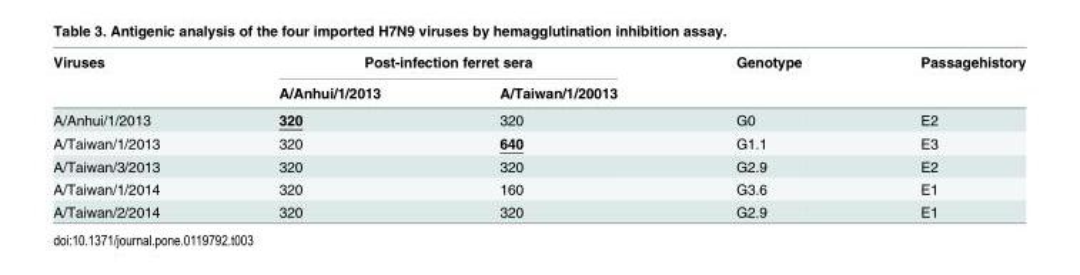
<table><thead><tr><td rowspan="2">Viruses</td><td colspan="2">Post-infection ferret sera</td><td rowspan="2">Genotype</td><td rowspan="2">Passagehistory</td></tr><tr><td>A/Anhui/1/2013</td><td>A/Taiwan/1/20013</td></tr></thead><tbody><tr><td>A/Anhui/1/2013</td><td>320</td><td>320</td><td>G0</td><td>E2</td></tr><tr><td>A/Taiwan/1/2013</td><td>320</td><td>640</td><td>G1.1</td><td>E3</td></tr><tr><td>A/Taiwan/3/2013</td><td>320</td><td>320</td><td>G2.9</td><td>E2</td></tr><tr><td>A/Taiwan/1/2014</td><td>320</td><td>160</td><td>G3.6</td><td>E1</td></tr><tr><td>A/Taiwan/2/2014</td><td>320</td><td>320</td><td>G2.9</td><td>E1</td></tr></tbody></table>